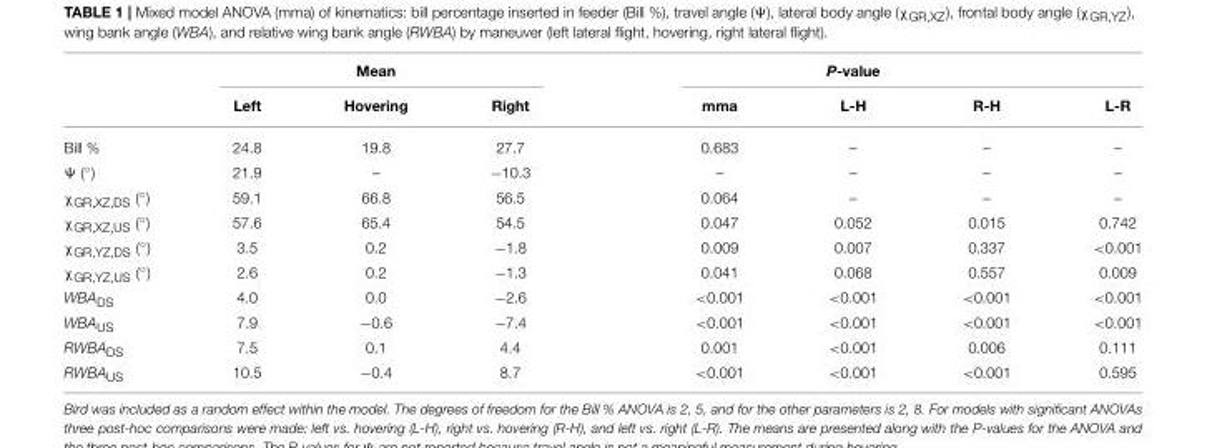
<table><thead><tr><td rowspan="2"></td><td rowspan="2">Left</td><td rowspan="2">Mean Hovering</td><td rowspan="2">Right</td><td rowspan="2">mma</td><td rowspan="2">P-value L-H</td><td rowspan="2">R-H</td><td rowspan="2">L-R</td></tr><tr></tr></thead><tbody><tr><td>Bill %</td><td>24.8</td><td>19.8</td><td>27.7</td><td>0.683</td><td>–</td><td>–</td><td>–</td></tr><tr><td>Ψ (◦)</td><td>21.9</td><td>–</td><td>−10.3</td><td>–</td><td>–</td><td>–</td><td>–</td></tr><tr><td>χGR,XZ,DS (◦)</td><td>59.1</td><td>66.8</td><td>56.5</td><td>0.064</td><td>–</td><td>–</td><td>–</td></tr><tr><td>χGR,XZ,US (◦)</td><td>57.6</td><td>65.4</td><td>54.5</td><td>0.047</td><td>0.052</td><td>0.015</td><td>0.742</td></tr><tr><td>χGR,YZ,DS (◦)</td><td>3.5</td><td>0.2</td><td>−1.8</td><td>0.009</td><td>0.007</td><td>0.337</td><td>&lt;0.001</td></tr><tr><td>χGR,YZ,US (◦)</td><td>2.6</td><td>0.2</td><td>−1.3</td><td>0.041</td><td>0.068</td><td>0.557</td><td>0.009</td></tr><tr><td>WBA<sub>DS</sub></td><td>4.0</td><td>0.0</td><td>−2.6</td><td>&lt;0.001</td><td>&lt;0.001</td><td>&lt;0.001</td><td>&lt;0.001</td></tr><tr><td>WBA<sub>US</sub></td><td>7.9</td><td>−0.6</td><td>−7.4</td><td>&lt;0.001</td><td>&lt;0.001</td><td>&lt;0.001</td><td>&lt;0.001</td></tr><tr><td>RWBA<sub>DS</sub></td><td>7.5</td><td>0.1</td><td>4.4</td><td>0.001</td><td>&lt;0.001</td><td>0.006</td><td>0.111</td></tr><tr><td>RWBA<sub>US</sub></td><td>10.5</td><td>−0.4</td><td>8.7</td><td>&lt;0.001</td><td>&lt;0.001</td><td>&lt;0.001</td><td>0.595</td></tr></tbody></table>